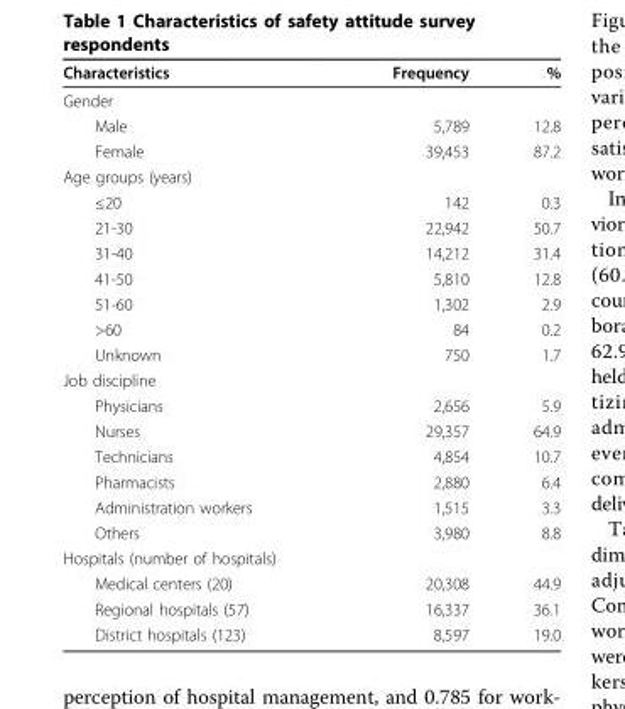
<table><thead><tr><td>Characteristics</td><td>Frequency</td><td>%</td></tr></thead><tbody><tr><td colspan="3">Gender</td></tr><tr><td>Male</td><td>5,789</td><td>12.8</td></tr><tr><td>Female</td><td>39,453</td><td>87.2</td></tr><tr><td colspan="3">Age groups (years)</td></tr><tr><td>≤20</td><td>142</td><td>0.3</td></tr><tr><td>21-30</td><td>22,942</td><td>50.7</td></tr><tr><td>31-40</td><td>14,212</td><td>31.4</td></tr><tr><td>41-50</td><td>5,810</td><td>12.8</td></tr><tr><td>51-60</td><td>1,302</td><td>2.9</td></tr><tr><td>&gt;60</td><td>84</td><td>0.2</td></tr><tr><td>Unknown</td><td>750</td><td>1.7</td></tr><tr><td colspan="3">Job discipline</td></tr><tr><td>Physicians</td><td>2,656</td><td>5.9</td></tr><tr><td>Nurses</td><td>29,357</td><td>64.9</td></tr><tr><td>Technicians</td><td>4,854</td><td>10.7</td></tr><tr><td>Pharmacists</td><td>2,880</td><td>6.4</td></tr><tr><td>Administration workers</td><td>1,515</td><td>3.3</td></tr><tr><td>Others</td><td>3,980</td><td>8.8</td></tr><tr><td colspan="3">Hospitals (number of hospitals)</td></tr><tr><td>Medical centers (20)</td><td>20,308</td><td>44.9</td></tr><tr><td>Regional hospitals (57)</td><td>16,337</td><td>36.1</td></tr><tr><td>District hospitals (123)</td><td>8,597</td><td>19.0</td></tr></tbody></table>